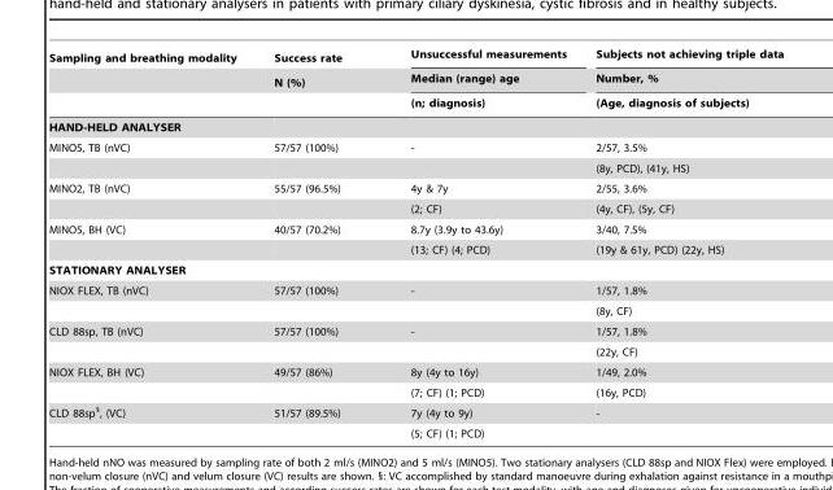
<table><thead><tr><td rowspan="3">Sampling and breathing modality</td><td rowspan="3">Success rate N (%)</td><td rowspan="3">Unsuccessful measurements Median (range) age (n; diagnosis)</td><td rowspan="3">Subjects not achieving triple data Number, % (Age, diagnosis of subjects)</td></tr><tr></tr><tr></tr></thead><tbody><tr><td colspan="4">HAND-HELD ANALYSER</td></tr><tr><td rowspan="2">MINO5, TB (nVC)</td><td>57/57 (100%)</td><td>-</td><td>2/57, 3.5%</td></tr><tr><td></td><td></td><td>(8y, PCD), (41y, HS)</td></tr><tr><td rowspan="2">MINO2, TB (nVC)</td><td>55/57 (96.5%)</td><td>4y &amp; 7y</td><td>2/55, 3.6%</td></tr><tr><td></td><td>(2; CF)</td><td>(4y, CF), (5y, CF)</td></tr><tr><td rowspan="2">MINO5, BH (VC)</td><td>40/57 (70.2%)</td><td>8.7y (3.9y to 43.6y)</td><td>3/40, 7.5%</td></tr><tr><td></td><td>(13; CF) (4; PCD)</td><td>(19y &amp; 61y, PCD) (22y, HS)</td></tr><tr><td colspan="4">STATIONARY ANALYSER</td></tr><tr><td rowspan="2">NIOX FLEX, TB (nVC)</td><td>57/57 (100%)</td><td>-</td><td>1/57, 1.8%</td></tr><tr><td></td><td></td><td>(8y, CF)</td></tr><tr><td rowspan="2">CLD 88sp, TB (nVC)</td><td>57/57 (100%)</td><td>-</td><td>1/57, 1.8%</td></tr><tr><td></td><td></td><td>(22y, CF)</td></tr><tr><td rowspan="2">NIOX FLEX, BH (VC)</td><td>49/57 (86%)</td><td>8y (4y to 16y)</td><td>1/49, 2.0%</td></tr><tr><td></td><td>(7; CF) (1; PCD)</td><td>(16y, PCD)</td></tr><tr><td rowspan="2">CLD 88sp<sup>§</sup>, (VC)</td><td>51/57 (89.5%)</td><td>7y (4y to 9y)</td><td>-</td></tr><tr><td></td><td>(5; CF) (1; PCD)</td><td></td></tr></tbody></table>